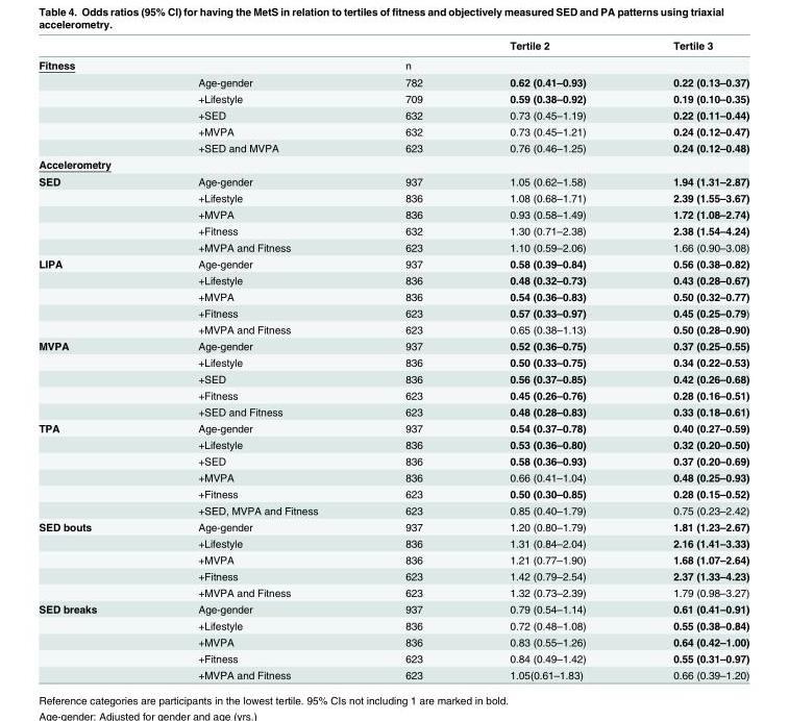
<table><thead><tr><td></td><td></td><td></td><td>Tertile 2</td><td>Tertile 3</td></tr></thead><tbody><tr><td rowspan="6">Fitness</td><td></td><td>n</td><td></td><td></td></tr><tr><td>Age-gender</td><td>782</td><td>0.62 (0.41–0.93)</td><td>0.22 (0.13–0.37)</td></tr><tr><td>+Lifestyle</td><td>709</td><td>0.59 (0.38–0.92)</td><td>0.19 (0.10–0.35)</td></tr><tr><td>+SED</td><td>632</td><td>0.73 (0.45–1.19)</td><td>0.22 (0.11–0.44)</td></tr><tr><td>+MVPA</td><td>632</td><td>0.73 (0.45–1.21)</td><td>0.24 (0.12–0.47)</td></tr><tr><td>+SED and MVPA</td><td>623</td><td>0.76 (0.46–1.25)</td><td>0.24 (0.12–0.48)</td></tr><tr><td colspan="5">Accelerometry</td></tr><tr><td rowspan="5">SED</td><td>Age-gender</td><td>937</td><td>1.05 (0.62–1.58)</td><td>1.94 (1.31–2.87)</td></tr><tr><td>+Lifestyle</td><td>836</td><td>1.08 (0.68–1.71)</td><td>2.39 (1.55–3.67)</td></tr><tr><td>+MVPA</td><td>836</td><td>0.93 (0.58–1.49)</td><td>1.72 (1.08–2.74)</td></tr><tr><td>+Fitness</td><td>632</td><td>1.30 (0.71–2.38)</td><td>2.38 (1.54–4.24)</td></tr><tr><td>+MVPA and Fitness</td><td>623</td><td>1.10 (0.59–2.06)</td><td>1.66 (0.90–3.08)</td></tr><tr><td rowspan="5">LIPA</td><td>Age-gender</td><td>937</td><td>0.58 (0.39–0.84)</td><td>0.56 (0.38–0.82)</td></tr><tr><td>+Lifestyle</td><td>836</td><td>0.48 (0.32–0.73)</td><td>0.43 (0.28–0.67)</td></tr><tr><td>+MVPA</td><td>836</td><td>0.54 (0.36–0.83)</td><td>0.50 (0.32–0.77)</td></tr><tr><td>+Fitness</td><td>623</td><td>0.57 (0.33–0.97)</td><td>0.45 (0.25–0.79)</td></tr><tr><td>+MVPA and Fitness</td><td>623</td><td>0.65 (0.38–1.13)</td><td>0.50 (0.28–0.90)</td></tr><tr><td rowspan="5">MVPA</td><td>Age-gender</td><td>937</td><td>0.52 (0.36–0.75)</td><td>0.37 (0.25–0.55)</td></tr><tr><td>+Lifestyle</td><td>836</td><td>0.50 (0.33–0.75)</td><td>0.34 (0.22–0.53)</td></tr><tr><td>+SED</td><td>836</td><td>0.56 (0.37–0.85)</td><td>0.42 (0.26–0.68)</td></tr><tr><td>+Fitness</td><td>623</td><td>0.45 (0.26–0.76)</td><td>0.28 (0.16–0.51)</td></tr><tr><td>+SED and Fitness</td><td>623</td><td>0.48 (0.28–0.83)</td><td>0.33 (0.18–0.61)</td></tr><tr><td rowspan="6">TPA</td><td>Age-gender</td><td>937</td><td>0.54 (0.37–0.78)</td><td>0.40 (0.27–0.59)</td></tr><tr><td>+Lifestyle</td><td>836</td><td>0.53 (0.36–0.80)</td><td>0.32 (0.20–0.50)</td></tr><tr><td>+SED</td><td>836</td><td>0.58 (0.36–0.93)</td><td>0.37 (0.20–0.69)</td></tr><tr><td>+MVPA</td><td>836</td><td>0.66 (0.41–1.04)</td><td>0.48 (0.25–0.93)</td></tr><tr><td>+Fitness</td><td>623</td><td>0.50 (0.30–0.85)</td><td>0.28 (0.15–0.52)</td></tr><tr><td>+SED, MVPA and Fitness</td><td>623</td><td>0.85 (0.40–1.79)</td><td>0.75 (0.23–2.42)</td></tr><tr><td rowspan="5">SED bouts</td><td>Age-gender</td><td>937</td><td>1.20 (0.80–1.79)</td><td>1.81 (1.23–2.67)</td></tr><tr><td>+Lifestyle</td><td>836</td><td>1.31 (0.84–2.04)</td><td>2.16 (1.41–3.33)</td></tr><tr><td>+MVPA</td><td>836</td><td>1.21 (0.77–1.90)</td><td>1.68 (1.07–2.64)</td></tr><tr><td>+Fitness</td><td>623</td><td>1.42 (0.79–2.54)</td><td>2.37 (1.33–4.23)</td></tr><tr><td>+MVPA and Fitness</td><td>623</td><td>1.32 (0.73–2.39)</td><td>1.79 (0.98–3.27)</td></tr><tr><td rowspan="5">SED breaks</td><td>Age-gender</td><td>937</td><td>0.79 (0.54–1.14)</td><td>0.61 (0.41–0.91)</td></tr><tr><td>+Lifestyle</td><td>836</td><td>0.72 (0.48–1.08)</td><td>0.55 (0.38–0.84)</td></tr><tr><td>+MVPA</td><td>836</td><td>0.83 (0.55–1.26)</td><td>0.64 (0.42–1.00)</td></tr><tr><td>+Fitness</td><td>623</td><td>0.84 (0.49–1.42)</td><td>0.55 (0.31–0.97)</td></tr><tr><td>+MVPA and Fitness</td><td>623</td><td>1.05(0.61–1.83)</td><td>0.66 (0.39–1.20)</td></tr></tbody></table>